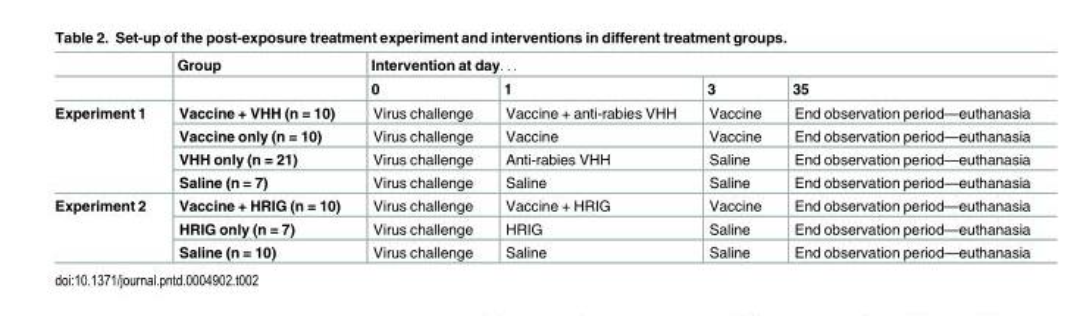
<table><thead><tr><td rowspan="2"></td><td rowspan="2">Group</td><td colspan="4">Intervention at day. . .</td></tr><tr><td>0</td><td>1</td><td>3</td><td>35</td></tr></thead><tbody><tr><td rowspan="4">Experiment 1</td><td>Vaccine + VHH (n = 10)</td><td>Virus challenge</td><td>Vaccine + anti-rabies VHH</td><td>Vaccine</td><td>End observation period—euthanasia</td></tr><tr><td>Vaccine only (n = 10)</td><td>Virus challenge</td><td>Vaccine</td><td>Vaccine</td><td>End observation period—euthanasia</td></tr><tr><td>VHH only (n = 21)</td><td>Virus challenge</td><td>Anti-rabies VHH</td><td>Saline</td><td>End observation period—euthanasia</td></tr><tr><td>Saline (n = 7)</td><td>Virus challenge</td><td>Saline</td><td>Saline</td><td>End observation period—euthanasia</td></tr><tr><td rowspan="3">Experiment 2</td><td>Vaccine + HRIG (n = 10)</td><td>Virus challenge</td><td>Vaccine + HRIG</td><td>Vaccine</td><td>End observation period—euthanasia</td></tr><tr><td>HRIG only (n = 7)</td><td>Virus challenge</td><td>HRIG</td><td>Saline</td><td>End observation period—euthanasia</td></tr><tr><td>Saline (n = 10)</td><td>Virus challenge</td><td>Saline</td><td>Saline</td><td>End observation period—euthanasia</td></tr></tbody></table>